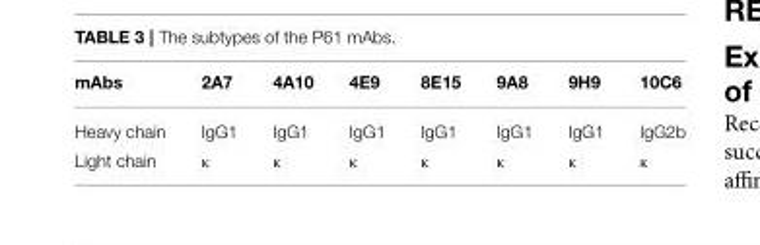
<table><thead><tr><td>mAbs</td><td>2A7</td><td>4A10</td><td>4E9</td><td>8E15</td><td>9A8</td><td>9H9</td><td>10C6</td></tr></thead><tbody><tr><td>Heavy chain</td><td>IgG1</td><td>IgG1</td><td>IgG1</td><td>IgG1</td><td>IgG1</td><td>IgG1</td><td>IgG2b</td></tr><tr><td>Light chain</td><td>κ</td><td>κ</td><td>κ</td><td>κ</td><td>κ</td><td>κ</td><td>κ</td></tr></tbody></table>